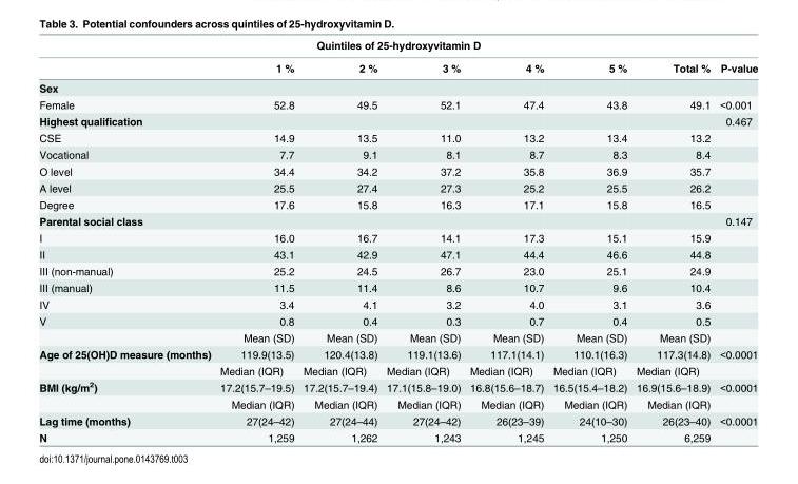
<table><thead><tr><td colspan="8">Quintiles of 25-hydroxyvitamin D</td></tr><tr><td></td><td>1 %</td><td>2 %</td><td>3 %</td><td>4 %</td><td>5 %</td><td>Total %</td><td>P-value</td></tr></thead><tbody><tr><td colspan="8">Sex</td></tr><tr><td>Female</td><td>52.8</td><td>49.5</td><td>52.1</td><td>47.4</td><td>43.8</td><td>49.1</td><td>&lt;0.001</td></tr><tr><td>Highest qualification</td><td></td><td></td><td></td><td></td><td></td><td></td><td>0.467</td></tr><tr><td>CSE</td><td>14.9</td><td>13.5</td><td>11.0</td><td>13.2</td><td>13.4</td><td>13.2</td><td></td></tr><tr><td>Vocational</td><td>7.7</td><td>9.1</td><td>8.1</td><td>8.7</td><td>8.3</td><td>8.4</td><td></td></tr><tr><td>O level</td><td>34.4</td><td>34.2</td><td>37.2</td><td>35.8</td><td>36.9</td><td>35.7</td><td></td></tr><tr><td>A level</td><td>25.5</td><td>27.4</td><td>27.3</td><td>25.2</td><td>25.5</td><td>26.2</td><td></td></tr><tr><td>Degree</td><td>17.6</td><td>15.8</td><td>16.3</td><td>17.1</td><td>15.8</td><td>16.5</td><td></td></tr><tr><td>Parental social class</td><td></td><td></td><td></td><td></td><td></td><td></td><td>0.147</td></tr><tr><td>I</td><td>16.0</td><td>16.7</td><td>14.1</td><td>17.3</td><td>15.1</td><td>15.9</td><td></td></tr><tr><td>II</td><td>43.1</td><td>42.9</td><td>47.1</td><td>44.4</td><td>46.6</td><td>44.8</td><td></td></tr><tr><td>III (non-manual)</td><td>25.2</td><td>24.5</td><td>26.7</td><td>23.0</td><td>25.1</td><td>24.9</td><td></td></tr><tr><td>III (manual)</td><td>11.5</td><td>11.4</td><td>8.6</td><td>10.7</td><td>9.6</td><td>10.4</td><td></td></tr><tr><td>IV</td><td>3.4</td><td>4.1</td><td>3.2</td><td>4.0</td><td>3.1</td><td>3.6</td><td></td></tr><tr><td rowspan="2">V</td><td>0.8</td><td>0.4</td><td>0.3</td><td>0.7</td><td>0.4</td><td>0.5</td><td></td></tr><tr><td>Mean (SD)</td><td>Mean (SD)</td><td>Mean (SD)</td><td>Mean (SD)</td><td>Mean (SD)</td><td>Mean (SD)</td><td></td></tr><tr><td rowspan="2">Age of 25(OH)D measure (months)</td><td>119.9(13.5)</td><td>120.4(13.8)</td><td>119.1(13.6)</td><td>117.1(14.1)</td><td>110.1(16.3)</td><td>117.3(14.8)</td><td>&lt;0.0001</td></tr><tr><td>Median (IQR)</td><td>Median (IQR)</td><td>Median (IQR)</td><td>Median (IQR)</td><td>Median (IQR)</td><td>Median (IQR)</td><td></td></tr><tr><td rowspan="2">BMI (kg/m<sup>2</sup>)</td><td>17.2(15.7–19.5)</td><td>17.2(15.7–19.4)</td><td>17.1(15.8–19.0)</td><td>16.8(15.6–18.7)</td><td>16.5(15.4–18.2)</td><td>16.9(15.6–18.9)</td><td>&lt;0.0001</td></tr><tr><td>Median (IQR)</td><td>Median (IQR)</td><td>Median (IQR)</td><td>Median (IQR)</td><td>Median (IQR)</td><td>Median (IQR)</td><td></td></tr><tr><td>Lag time (months)</td><td>27(24–42)</td><td>27(24–44)</td><td>27(24–42)</td><td>26(23–39)</td><td>24(10–30)</td><td>26(23–40)</td><td>&lt;0.0001</td></tr><tr><td>N</td><td>1,259</td><td>1,262</td><td>1,243</td><td>1,245</td><td>1,250</td><td>6,259</td><td></td></tr></tbody></table>